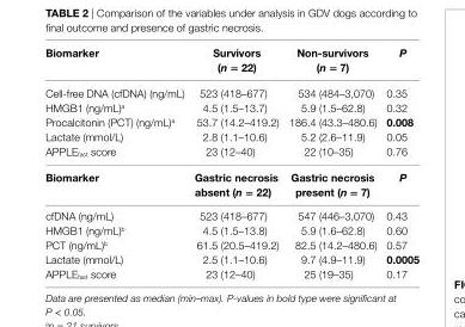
<table><thead><tr><td>Biomarker</td><td>survivors (n = 22)</td><td>non-survivors (n = 7)</td><td>P</td></tr></thead><tbody><tr><td>Cell-free DNA (cfDNA) (ng/mL)</td><td>523 (418–677)</td><td>534 (484–3,070)</td><td>0.35</td></tr><tr><td>HMGB1 (ng/mL)<sup>a</sup></td><td>4.5 (1.5–13.7)</td><td>5.9 (1.5–62.8)</td><td>0.32</td></tr><tr><td>Procalcitonin (PCT) (ng/mL)<sup>a</sup></td><td>53.7 (14.2–419.2)</td><td>186.4 (43.3–480.6)</td><td>0.008</td></tr><tr><td>Lactate (mmol/L)</td><td>2.8 (1.1–10.6)</td><td>5.2 (2.6–11.9)</td><td>0.05</td></tr><tr><td>APPLE<sub>fast</sub> score</td><td>23 (12–40)</td><td>22 (10–35)</td><td>0.76</td></tr><tr><td>Biomarker</td><td>gastric necrosis absent (n = 22)</td><td>gastric necrosis present (n = 7)</td><td>P</td></tr><tr><td>cfDNA (ng/mL)</td><td>523 (418–677)</td><td>547 (446–3,070)</td><td>0.43</td></tr><tr><td>HMGB1 (ng/mL)<sup>b</sup></td><td>4.5 (1.5–13.8)</td><td>5.9 (1.6–62.8)</td><td>0.60</td></tr><tr><td>PCT (ng/mL)<sup>b</sup></td><td>61.5 (20.5–419.2)</td><td>82.5 (14.2–480.6)</td><td>0.57</td></tr><tr><td>Lactate (mmol/L)</td><td>2.5 (1.1–10.6)</td><td>9.7 (4.9–11.9)</td><td>0.0005</td></tr><tr><td>APPLE<sub>fast</sub> score</td><td>23 (12–40)</td><td>25 (19–35)</td><td>0.17</td></tr></tbody></table>